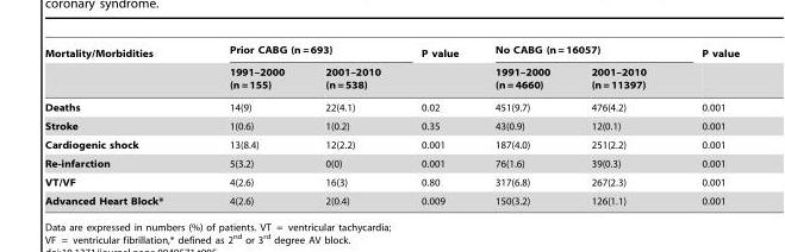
<table><thead><tr><td rowspan="2">Mortality/Morbidities</td><td colspan="2">Prior CABG (n = 693)</td><td rowspan="2">P value</td><td colspan="2">No CABG (n = 16057)</td><td rowspan="2">P value</td></tr><tr><td>1991–2000 (n = 155)</td><td>2001–2010 (n = 538)</td><td>1991–2000 (n = 4660)</td><td>2001–2010 (n = 11397)</td></tr></thead><tbody><tr><td>Deaths</td><td>14(9)</td><td>22(4.1)</td><td>0.02</td><td>451(9.7)</td><td>476(4.2)</td><td>0.001</td></tr><tr><td>Stroke</td><td>1(0.6)</td><td>1(0.2)</td><td>0.35</td><td>43(0.9)</td><td>12(0.1)</td><td>0.001</td></tr><tr><td>Cardiogenic shock</td><td>13(8.4)</td><td>12(2.2)</td><td>0.001</td><td>187(4.0)</td><td>251(2.2)</td><td>0.001</td></tr><tr><td>Re-infarction</td><td>5(3.2)</td><td>0(0)</td><td>0.001</td><td>76(1.6)</td><td>39(0.3)</td><td>0.001</td></tr><tr><td>VT/VF</td><td>4(2.6)</td><td>16(3)</td><td>0.80</td><td>317(6.8)</td><td>267(2.3)</td><td>0.001</td></tr><tr><td>Advanced Heart Block*</td><td>4(2.6)</td><td>2(0.4)</td><td>0.009</td><td>150(3.2)</td><td>126(1.1)</td><td>0.001</td></tr></tbody></table>